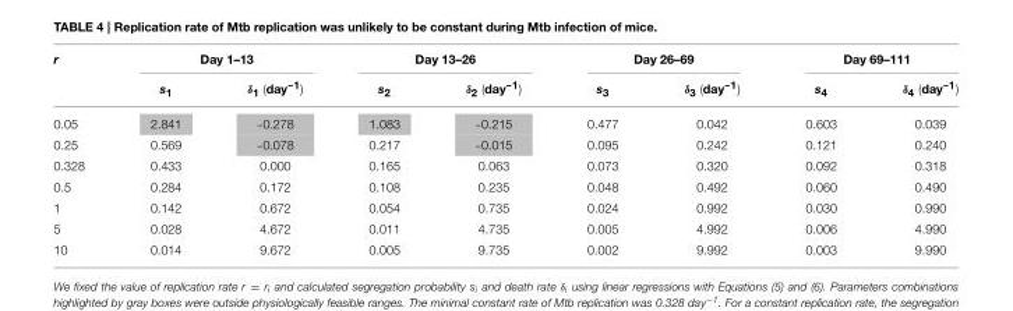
<table><thead><tr><td rowspan="2">r</td><td colspan="2">Day 1–13</td><td colspan="2">Day 13–26</td><td colspan="2">Day 26–69</td><td colspan="2">Day 69–111</td></tr><tr><td>s<sub>1</sub></td><td>δ<sub>1</sub> (day<sup>−1</sup>)</td><td>s<sub>2</sub></td><td>δ<sub>2</sub> (day<sup>−1</sup>)</td><td>s<sub>3</sub></td><td>δ<sub>3</sub> (day<sup>−1</sup>)</td><td>s<sub>4</sub></td><td>δ<sub>4</sub> (day<sup>−1</sup>)</td></tr></thead><tbody><tr><td>0.05</td><td>2.841</td><td>−0.278</td><td>1.083</td><td>−0.215</td><td>0.477</td><td>0.042</td><td>0.603</td><td>0.039</td></tr><tr><td>0.25</td><td>0.569</td><td>−0.078</td><td>0.217</td><td>−0.015</td><td>0.095</td><td>0.242</td><td>0.121</td><td>0.240</td></tr><tr><td>0.328</td><td>0.433</td><td>0.000</td><td>0.165</td><td>0.063</td><td>0.073</td><td>0.320</td><td>0.092</td><td>0.318</td></tr><tr><td>0.5</td><td>0.284</td><td>0.172</td><td>0.108</td><td>0.235</td><td>0.048</td><td>0.492</td><td>0.060</td><td>0.490</td></tr><tr><td>1</td><td>0.142</td><td>0.672</td><td>0.054</td><td>0.735</td><td>0.024</td><td>0.992</td><td>0.030</td><td>0.990</td></tr><tr><td>5</td><td>0.028</td><td>4.672</td><td>0.011</td><td>4.735</td><td>0.005</td><td>4.992</td><td>0.006</td><td>4.990</td></tr><tr><td>10</td><td>0.014</td><td>9.672</td><td>0.005</td><td>9.735</td><td>0.002</td><td>9.992</td><td>0.003</td><td>9.990</td></tr></tbody></table>